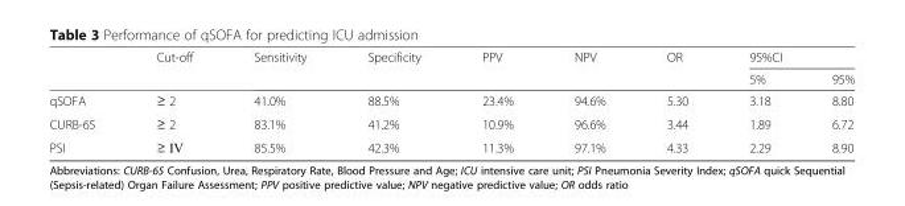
<table><thead><tr><td rowspan="2"></td><td rowspan="2">Cut-off</td><td rowspan="2">Sensitivity</td><td rowspan="2">Specificity</td><td rowspan="2">PPV</td><td rowspan="2">NPV</td><td rowspan="2">OR</td><td colspan="2">95%CI</td></tr><tr><td>5%</td><td>95%</td></tr></thead><tbody><tr><td>qSOFA</td><td>≥ 2</td><td>41.0%</td><td>88.5%</td><td>23.4%</td><td>94.6%</td><td>5.30</td><td>3.18</td><td>8.80</td></tr><tr><td>CURB-65</td><td>≥ 2</td><td>83.1%</td><td>41.2%</td><td>10.9%</td><td>96.6%</td><td>3.44</td><td>1.89</td><td>6.72</td></tr><tr><td>PSI</td><td>≥ IV</td><td>85.5%</td><td>42.3%</td><td>11.3%</td><td>97.1%</td><td>4.33</td><td>2.29</td><td>8.90</td></tr></tbody></table>